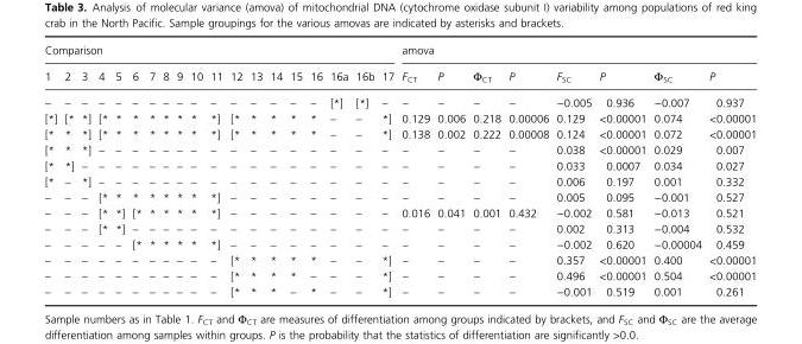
<table><thead><tr><td colspan="19">Comparison</td><td colspan="8">amova</td></tr><tr><td>1</td><td>2</td><td>3</td><td>4</td><td>5</td><td>6</td><td>7</td><td>8</td><td>9</td><td>10</td><td>11</td><td>12</td><td>13</td><td>14</td><td>15</td><td>16</td><td>16a</td><td>16b</td><td>17</td><td>F<sub>CT</sub></td><td>P</td><td>Φ<sub>CT</sub></td><td>P</td><td>F<sub>SC</sub></td><td>P</td><td>Φ<sub>SC</sub></td><td>P</td></tr></thead><tbody><tr><td>–</td><td>–</td><td>–</td><td>–</td><td>–</td><td>–</td><td>–</td><td>–</td><td>–</td><td>–</td><td>–</td><td>–</td><td>–</td><td>–</td><td>–</td><td>–</td><td>[*]</td><td>[*]</td><td>–</td><td>–</td><td>–</td><td>–</td><td>–</td><td>−0.005</td><td>0.936</td><td>−0.007</td><td>0.937</td></tr><tr><td>[*]</td><td>[*</td><td>*]</td><td>[*</td><td>*</td><td>*</td><td>*</td><td>*</td><td>*</td><td>*</td><td>*]</td><td>[*</td><td>*</td><td>*</td><td>*</td><td>*</td><td>–</td><td>–</td><td>*]</td><td>0.129</td><td>0.006</td><td>0.218</td><td>0.00006</td><td>0.129</td><td>&lt;0.00001</td><td>0.074</td><td>&lt;0.00001</td></tr><tr><td>[*</td><td>*</td><td>*]</td><td>[*</td><td>*</td><td>*</td><td>*</td><td>*</td><td>*</td><td>*</td><td>*]</td><td>[*</td><td>*</td><td>*</td><td>*</td><td>*</td><td>–</td><td>–</td><td>*]</td><td>0.138</td><td>0.002</td><td>0.222</td><td>0.00008</td><td>0.124</td><td>&lt;0.00001</td><td>0.072</td><td>&lt;0.00001</td></tr><tr><td>[*</td><td>*</td><td>*]</td><td>–</td><td>–</td><td>–</td><td>–</td><td>–</td><td>–</td><td>–</td><td>–</td><td>–</td><td>–</td><td>–</td><td>–</td><td>–</td><td>–</td><td>–</td><td>–</td><td>–</td><td>–</td><td>–</td><td>–</td><td>0.038</td><td>&lt;0.00001</td><td>0.029</td><td>0.007</td></tr><tr><td>[*</td><td>*]</td><td>–</td><td>–</td><td>–</td><td>–</td><td>–</td><td>–</td><td>–</td><td>–</td><td>–</td><td>–</td><td>–</td><td>–</td><td>–</td><td>–</td><td>–</td><td>–</td><td>–</td><td>–</td><td>–</td><td>–</td><td>–</td><td>0.033</td><td>0.0007</td><td>0.034</td><td>0.027</td></tr><tr><td>[*</td><td>–</td><td>*]</td><td>–</td><td>–</td><td>–</td><td>–</td><td>–</td><td>–</td><td>–</td><td>–</td><td>–</td><td>–</td><td>–</td><td>–</td><td>–</td><td>–</td><td>–</td><td>–</td><td>–</td><td>–</td><td>–</td><td>–</td><td>0.006</td><td>0.197</td><td>0.001</td><td>0.332</td></tr><tr><td>–</td><td>–</td><td>–</td><td>[*</td><td>*</td><td>*</td><td>*</td><td>*</td><td>*</td><td>*</td><td>*]</td><td>–</td><td>–</td><td>–</td><td>–</td><td>–</td><td>–</td><td>–</td><td>–</td><td>–</td><td>–</td><td>–</td><td>–</td><td>0.005</td><td>0.095</td><td>−0.001</td><td>0.527</td></tr><tr><td>–</td><td>–</td><td>–</td><td>[*</td><td>*]</td><td>[*</td><td>*</td><td>*</td><td>*</td><td>*</td><td>*]</td><td>–</td><td>–</td><td>–</td><td>–</td><td>–</td><td>–</td><td>–</td><td>–</td><td>0.016</td><td>0.041</td><td>0.001</td><td>0.432</td><td>−0.002</td><td>0.581</td><td>−0.013</td><td>0.521</td></tr><tr><td>–</td><td>–</td><td>–</td><td>[*</td><td>*]</td><td>–</td><td>–</td><td>–</td><td>–</td><td>–</td><td>–</td><td>–</td><td>–</td><td>–</td><td>–</td><td>–</td><td>–</td><td>–</td><td>–</td><td>–</td><td>–</td><td>–</td><td>–</td><td>0.002</td><td>0.313</td><td>−0.004</td><td>0.532</td></tr><tr><td>–</td><td>–</td><td>–</td><td>–</td><td>–</td><td>[*</td><td>*</td><td>*</td><td>*</td><td>*</td><td>*]</td><td>–</td><td>–</td><td>–</td><td>–</td><td>–</td><td>–</td><td>–</td><td>–</td><td>–</td><td>–</td><td>–</td><td>–</td><td>−0.002</td><td>0.620</td><td>−0.00004</td><td>0.459</td></tr><tr><td>–</td><td>–</td><td>–</td><td>–</td><td>–</td><td>–</td><td>–</td><td>–</td><td>–</td><td>–</td><td>–</td><td>[*</td><td>*</td><td>*</td><td>*</td><td>*</td><td>–</td><td>–</td><td>*]</td><td>–</td><td>–</td><td>–</td><td>–</td><td>0.357</td><td>&lt;0.00001</td><td>0.400</td><td>&lt;0.00001</td></tr><tr><td>–</td><td>–</td><td>–</td><td>–</td><td>–</td><td>–</td><td>–</td><td>–</td><td>–</td><td>–</td><td>–</td><td>[*</td><td>*</td><td>*</td><td>*</td><td>–</td><td>–</td><td>–</td><td>*]</td><td>–</td><td>–</td><td>–</td><td>–</td><td>0.496</td><td>&lt;0.00001</td><td>0.504</td><td>&lt;0.00001</td></tr><tr><td>–</td><td>–</td><td>–</td><td>–</td><td>–</td><td>–</td><td>–</td><td>–</td><td>–</td><td>–</td><td>–</td><td>[*</td><td>*</td><td>*</td><td>–</td><td>*</td><td>–</td><td>–</td><td>*]</td><td>–</td><td>–</td><td>–</td><td>–</td><td>−0.001</td><td>0.519</td><td>0.001</td><td>0.261</td></tr></tbody></table>